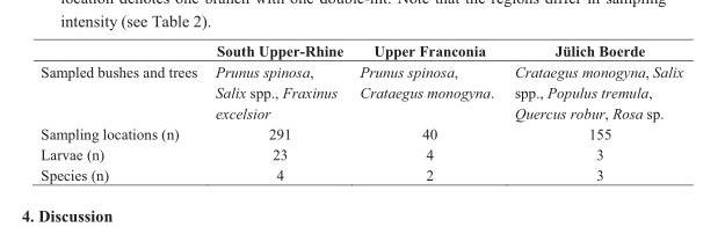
<table><thead><tr><td></td><td>South Upper-Rhine</td><td>Upper Franconia</td><td>Jülich Boerde</td></tr></thead><tbody><tr><td>Sampled bushes and trees</td><td>Prunus spinosa, Salix spp., Fraxinus excelsior</td><td>Prunus spinosa, Crataegus monogyna.</td><td>Crataegus monogyna, Salix spp., Populus tremula, Quercus robur, Rosa sp.</td></tr><tr><td>Sampling locations (n)</td><td>291</td><td>40</td><td>155</td></tr><tr><td>Larvae (n)</td><td>23</td><td>4</td><td>3</td></tr><tr><td>Species (n)</td><td>4</td><td>2</td><td>3</td></tr></tbody></table>